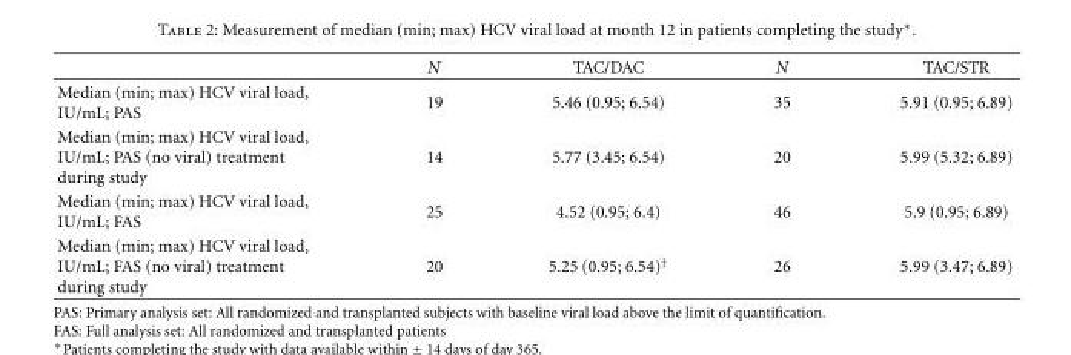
<table><thead><tr><td></td><td>N</td><td>TAC/DAC</td><td>N</td><td>TAC/STR</td></tr></thead><tbody><tr><td>Median (min; max) HCV viral load, IU/mL; PAS</td><td>19</td><td>5.46 (0.95; 6.54)</td><td>35</td><td>5.91 (0.95; 6.89)</td></tr><tr><td>Median (min; max) HCV viral load, IU/mL; PAS (no viral) treatment during study</td><td>14</td><td>5.77 (3.45; 6.54)</td><td>20</td><td>5.99 (5.32; 6.89)</td></tr><tr><td>Median (min; max) HCV viral load, IU/mL; FAS</td><td>25</td><td>4.52 (0.95; 6.4)</td><td>46</td><td>5.9 (0.95; 6.89)</td></tr><tr><td>Median (min; max) HCV viral load, IU/mL; FAS (no viral) treatment during study</td><td>20</td><td>5.25 (0.95; 6.54)<sup>†</sup></td><td>26</td><td>5.99 (3.47; 6.89)</td></tr></tbody></table>